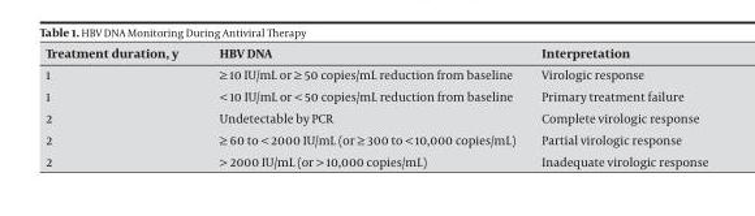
<table><thead><tr><td>Treatment duration, y</td><td>HBV DNA</td><td>Interpretation</td></tr></thead><tbody><tr><td>1</td><td>≥ 10 IU/mL or ≥ 50 copies/mL reduction from baseline</td><td>Virologic response</td></tr><tr><td>1</td><td>&lt; 10 IU/mL or &lt; 50 copies/mL reduction from baseline</td><td>Primary treatment failure</td></tr><tr><td>2</td><td>Undetectable by PCR</td><td>Complete virologic response</td></tr><tr><td>2</td><td>≥ 60 to &lt; 2000 IU/mL (or ≥ 300 to &lt; 10,000 copies/mL)</td><td>Partial virologic response</td></tr><tr><td>2</td><td>&gt; 2000 IU/mL (or &gt; 10,000 copies/mL)</td><td>Inadequate virologic response</td></tr></tbody></table>